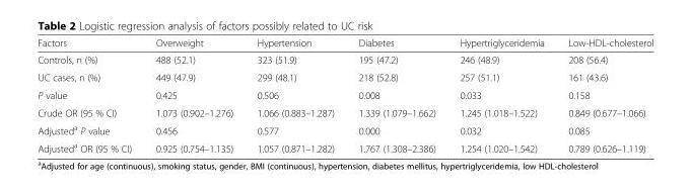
<table><thead><tr><td>Factors</td><td>Overweight</td><td>Hypertension</td><td>Diabetes</td><td>Hypertriglyceridemia</td><td>Low-HDL-cholesterol</td></tr></thead><tbody><tr><td>Controls, n (%)</td><td>488 (52.1)</td><td>323 (51.9)</td><td>195 (47.2)</td><td>246 (48.9)</td><td>208 (56.4)</td></tr><tr><td>UC cases, n (%)</td><td>449 (47.9)</td><td>299 (48.1)</td><td>218 (52.8)</td><td>257 (51.1)</td><td>161 (43.6)</td></tr><tr><td>P value</td><td>0.425</td><td>0.506</td><td>0.008</td><td>0.033</td><td>0.158</td></tr><tr><td>Crude OR (95 % CI)</td><td>1.073 (0.902–1.276)</td><td>1.066 (0.883–1.287)</td><td>1.339 (1.079–1.662)</td><td>1.245 (1.018–1.522)</td><td>0.849 (0.677–1.066)</td></tr><tr><td>Adjusted<sup>a</sup> P value</td><td>0.456</td><td>0.577</td><td>0.000</td><td>0.032</td><td>0.085</td></tr><tr><td>Adjusted<sup>a</sup> OR (95 % CI)</td><td>0.925 (0.754–1.135)</td><td>1.057 (0.871–1.282)</td><td>1.767 (1.308–2.386)</td><td>1.254 (1.020–1.542)</td><td>0.789 (0.626–1.119)</td></tr></tbody></table>